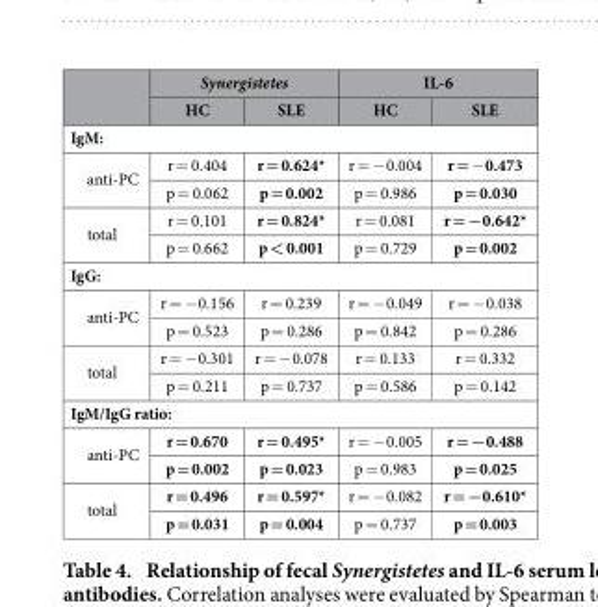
<table><thead><tr><td rowspan="2"></td><td colspan="2">Synergistetes</td><td colspan="2">IL-6</td></tr><tr><td>HC</td><td>SLE</td><td>HC</td><td>SLE</td></tr></thead><tbody><tr><td colspan="5">IgM:</td></tr><tr><td rowspan="2">anti-PC</td><td>r = 0.404</td><td>r = 0.624*</td><td>r = − 0.004</td><td>r = − 0.473</td></tr><tr><td>p = 0.062</td><td>p = 0.002</td><td>p = 0.986</td><td>p = 0.030</td></tr><tr><td rowspan="2">total</td><td>r = 0.101</td><td>r = 0.824*</td><td>r = 0.081</td><td>r = −0.642*</td></tr><tr><td>p = 0.662</td><td>p &lt; 0.001</td><td>p = 0.729</td><td>p = 0.002</td></tr><tr><td colspan="5">IgG:</td></tr><tr><td rowspan="2">anti-PC</td><td>r = − 0.156</td><td>r = 0.239</td><td>r = − 0.049</td><td>r = − 0.038</td></tr><tr><td>p = 0.523</td><td>p = 0.286</td><td>p = 0.842</td><td>p = 0.286</td></tr><tr><td rowspan="2">total</td><td>r = − 0.301</td><td>r = − 0.078</td><td>r = 0.133</td><td>r = 0.332</td></tr><tr><td>p = 0.211</td><td>p = 0.737</td><td>p = 0.586</td><td>p = 0.142</td></tr><tr><td colspan="5">IgM/IgG ratio:</td></tr><tr><td rowspan="2">anti-PC</td><td>r = 0.670</td><td>r = 0.495*</td><td>r = − 0.005</td><td>r = −0.488</td></tr><tr><td>p = 0.002</td><td>p = 0.023</td><td>p = 0.983</td><td>p = 0.025</td></tr><tr><td rowspan="2">total</td><td>r = 0.496</td><td>r = 0.597*</td><td>r = − 0.082</td><td>r = −0.610*</td></tr><tr><td>p = 0.031</td><td>p = 0.004</td><td>p = 0.737</td><td>p = 0.003</td></tr></tbody></table>